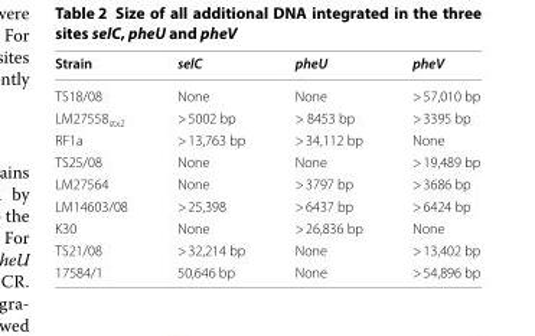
<table><thead><tr><td>Strain</td><td>selC</td><td>pheU</td><td>pheV</td></tr></thead><tbody><tr><td>TS18/08</td><td>None</td><td>None</td><td>&gt; 57,010 bp</td></tr><tr><td>LM27558<sub>stx2</sub></td><td>&gt; 5002 bp</td><td>&gt; 8453 bp</td><td>&gt; 3395 bp</td></tr><tr><td>RF1a</td><td>&gt; 13,763 bp</td><td>&gt; 34,112 bp</td><td>None</td></tr><tr><td>TS25/08</td><td>None</td><td>None</td><td>&gt; 19,489 bp</td></tr><tr><td>LM27564</td><td>None</td><td>&gt; 3797 bp</td><td>&gt; 3686 bp</td></tr><tr><td>LM14603/08</td><td>&gt; 25,398</td><td>&gt; 6437 bp</td><td>&gt; 6424 bp</td></tr><tr><td>K30</td><td>None</td><td>&gt; 26,836 bp</td><td>None</td></tr><tr><td>TS21/08</td><td>&gt; 32,214 bp</td><td>None</td><td>&gt; 13,402 bp</td></tr><tr><td>17584/1</td><td>50,646 bp</td><td>None</td><td>&gt; 54,896 bp</td></tr></tbody></table>